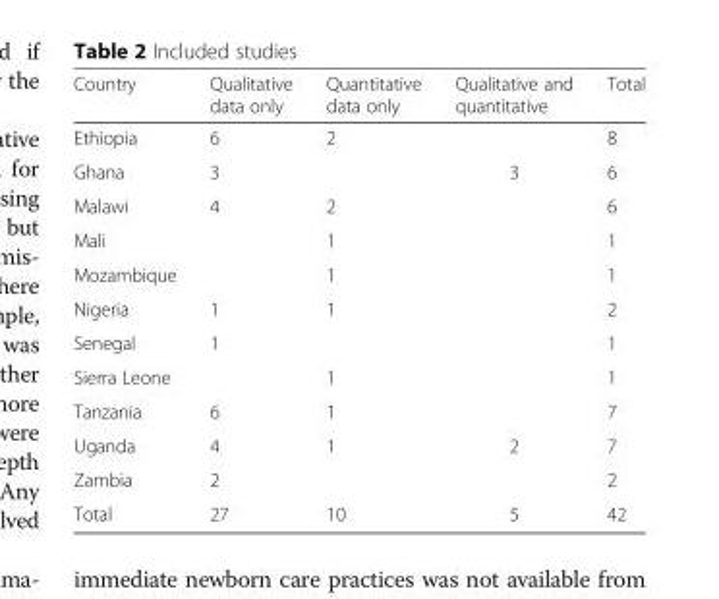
<table><thead><tr><td>Country</td><td>Qualitative data only</td><td>Quantitative data only</td><td>Qualitative and quantitative</td><td>Total</td></tr></thead><tbody><tr><td>Ethiopia</td><td>6</td><td>2</td><td></td><td>8</td></tr><tr><td>Ghana</td><td>3</td><td></td><td>3</td><td>6</td></tr><tr><td>Malawi</td><td>4</td><td>2</td><td></td><td>6</td></tr><tr><td>Mali</td><td></td><td>1</td><td></td><td>1</td></tr><tr><td>Mozambique</td><td></td><td>1</td><td></td><td>1</td></tr><tr><td>Nigeria</td><td>1</td><td>1</td><td></td><td>2</td></tr><tr><td>Senegal</td><td>1</td><td></td><td></td><td>1</td></tr><tr><td>Sierra Leone</td><td></td><td>1</td><td></td><td>1</td></tr><tr><td>Tanzania</td><td>6</td><td>1</td><td></td><td>7</td></tr><tr><td>Uganda</td><td>4</td><td>1</td><td>2</td><td>7</td></tr><tr><td>Zambia</td><td>2</td><td></td><td></td><td>2</td></tr><tr><td>Total</td><td>27</td><td>10</td><td>5</td><td>42</td></tr></tbody></table>